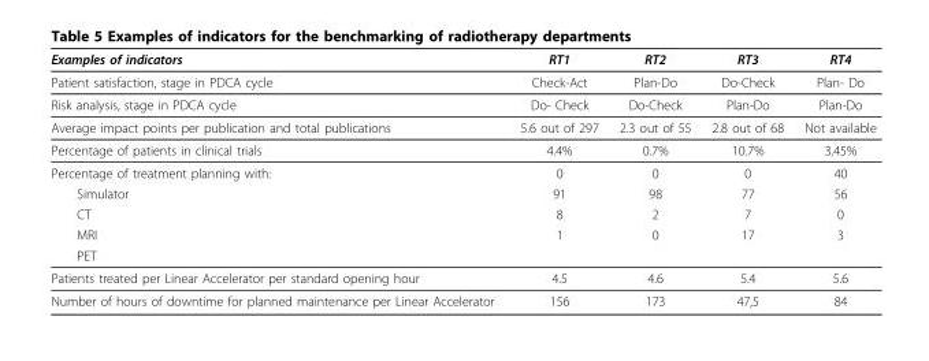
<table><thead><tr><td>Examples of indicators</td><td>RT1</td><td>RT2</td><td>RT3</td><td>RT4</td></tr></thead><tbody><tr><td>Patient satisfaction, stage in PDCA cycle</td><td>Check-Act</td><td>Plan-Do</td><td>Do-Check</td><td>Plan- Do</td></tr><tr><td>Risk analysis, stage in PDCA cycle</td><td>Do- Check</td><td>Do-Check</td><td>Plan-Do</td><td>Plan-Do</td></tr><tr><td>Average impact points per publication and total publications</td><td>5.6 out of 297</td><td>2.3 out of 55</td><td>2.8 out of 68</td><td>Not available</td></tr><tr><td>Percentage of patients in clinical trials</td><td>4.4%</td><td>0.7%</td><td>10.7%</td><td>3.45%</td></tr><tr><td>Percentage of treatment planning with:</td><td>0</td><td>0</td><td>0</td><td>40</td></tr><tr><td>Simulator</td><td>91</td><td>98</td><td>77</td><td>56</td></tr><tr><td>CT</td><td>8</td><td>2</td><td>7</td><td>0</td></tr><tr><td>MRI</td><td>1</td><td>0</td><td>17</td><td>3</td></tr><tr><td colspan="5">PET</td></tr><tr><td>Patients treated per Linear Accelerator per standard opening hour</td><td>4.5</td><td>4.6</td><td>5.4</td><td>5.6</td></tr><tr><td>Number of hours of downtime for planned maintenance per Linear Accelerator</td><td>156</td><td>173</td><td>47,5</td><td>84</td></tr></tbody></table>